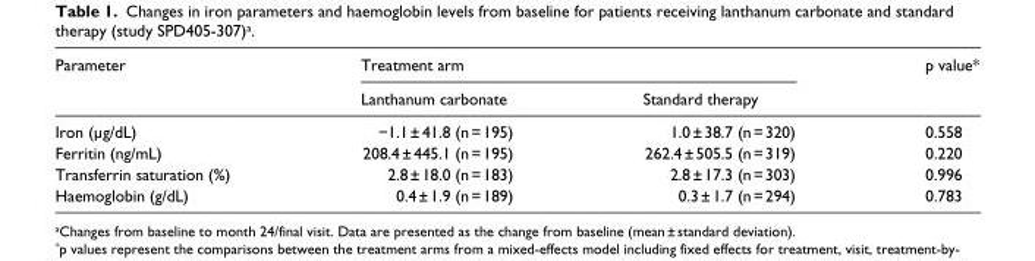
<table><thead><tr><td rowspan="2">Parameter</td><td colspan="2">Treatment arm</td><td rowspan="2">p value*</td></tr><tr><td>Lanthanum carbonate</td><td>Standard therapy</td></tr></thead><tbody><tr><td>Iron (µg/dL)</td><td>−1.1 ± 41.8 (n = 195)</td><td>1.0 ± 38.7 (n = 320)</td><td>0.558</td></tr><tr><td>Ferritin (ng/mL)</td><td>208.4 ± 445.1 (n = 195)</td><td>262.4 ± 505.5 (n = 319)</td><td>0.220</td></tr><tr><td>Transferrin saturation (%)</td><td>2.8 ± 18.0 (n = 183)</td><td>2.8 ± 17.3 (n = 303)</td><td>0.996</td></tr><tr><td>Haemoglobin (g/dL)</td><td>0.4 ± 1.9 (n = 189)</td><td>0.3 ± 1.7 (n = 294)</td><td>0.783</td></tr></tbody></table>